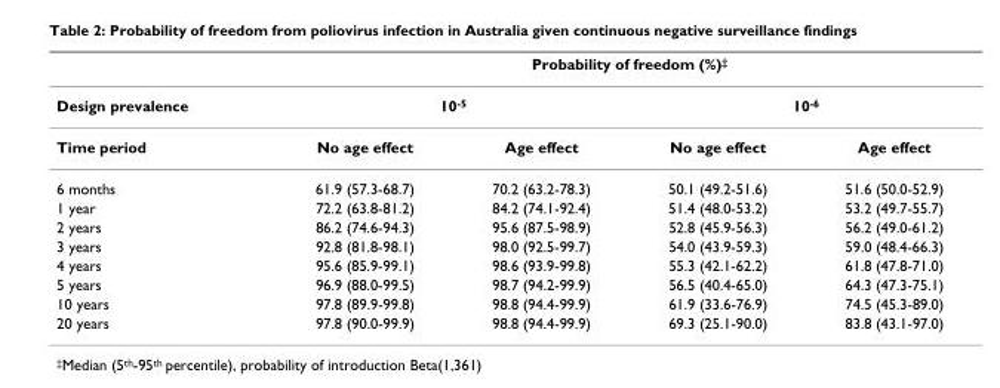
<table><thead><tr><td rowspan="3">Design prevalence Time period</td><td colspan="4">Probability of freedom (%)‡</td></tr><tr><td colspan="2">10-5</td><td colspan="2">10-6</td></tr><tr><td>No age effect</td><td>Age effect</td><td>No age effect</td><td>Age effect</td></tr></thead><tbody><tr><td>6 months</td><td>61.9 (57.3-68.7)</td><td>70.2 (63.2-78.3)</td><td>50.1 (49.2-51.6)</td><td>51.6 (50.0-52.9)</td></tr><tr><td>1 year</td><td>72.2 (63.8-81.2)</td><td>84.2 (74.1-92.4)</td><td>51.4 (48.0-53.2)</td><td>53.2 (49.7-55.7)</td></tr><tr><td>2 years</td><td>86.2 (74.6-94.3)</td><td>95.6 (87.5-98.9)</td><td>52.8 (45.9-56.3)</td><td>56.2 (49.0-61.2)</td></tr><tr><td>3 years</td><td>92.8 (81.8-98.1)</td><td>98.0 (92.5-99.7)</td><td>54.0 (43.9-59.3)</td><td>59.0 (48.4-66.3)</td></tr><tr><td>4 years</td><td>95.6 (85.9-99.1)</td><td>98.6 (93.9-99.8)</td><td>55.3 (42.1-62.2)</td><td>61.8 (47.8-71.0)</td></tr><tr><td>5 years</td><td>96.9 (88.0-99.5)</td><td>98.7 (94.2-99.9)</td><td>56.5 (40.4-65.0)</td><td>64.3 (47.3-75.1)</td></tr><tr><td>10 years</td><td>97.8 (89.9-99.8)</td><td>98.8 (94.4-99.9)</td><td>61.9 (33.6-76.9)</td><td>74.5 (45.3-89.0)</td></tr><tr><td>20 years</td><td>97.8 (90.0-99.9)</td><td>98.8 (94.4-99.9)</td><td>69.3 (25.1-90.0)</td><td>83.8 (43.1-97.0)</td></tr></tbody></table>